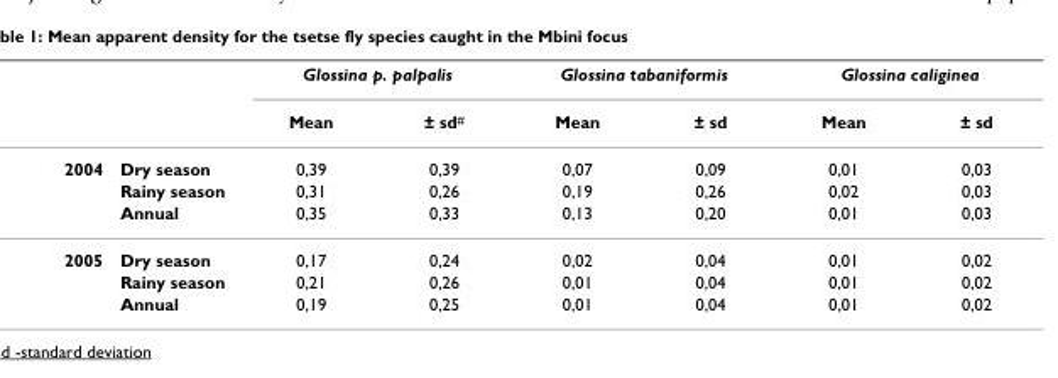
<table><thead><tr><td rowspan="2"></td><td rowspan="2"></td><td colspan="2">Glossina p. palpalis</td><td colspan="2">Glossina tabaniformis</td><td colspan="2">Glossina caliginea</td></tr><tr><td>Mean</td><td>± sd<sup>#</sup></td><td>Mean</td><td>± sd</td><td>Mean</td><td>± sd</td></tr></thead><tbody><tr><td rowspan="3">2004</td><td>Dry season</td><td>0,39</td><td>0,39</td><td>0,07</td><td>0,09</td><td>0,01</td><td>0,03</td></tr><tr><td>Rainy season</td><td>0,31</td><td>0,26</td><td>0,19</td><td>0,26</td><td>0,02</td><td>0,03</td></tr><tr><td>Annual</td><td>0,35</td><td>0,33</td><td>0,13</td><td>0,20</td><td>0,01</td><td>0,03</td></tr><tr><td rowspan="3">2005</td><td>Dry season</td><td>0,17</td><td>0,24</td><td>0,02</td><td>0,04</td><td>0,01</td><td>0,02</td></tr><tr><td>Rainy season</td><td>0,21</td><td>0,26</td><td>0,01</td><td>0,04</td><td>0,01</td><td>0,02</td></tr><tr><td>Annual</td><td>0,19</td><td>0,25</td><td>0,01</td><td>0,04</td><td>0,01</td><td>0,02</td></tr></tbody></table>